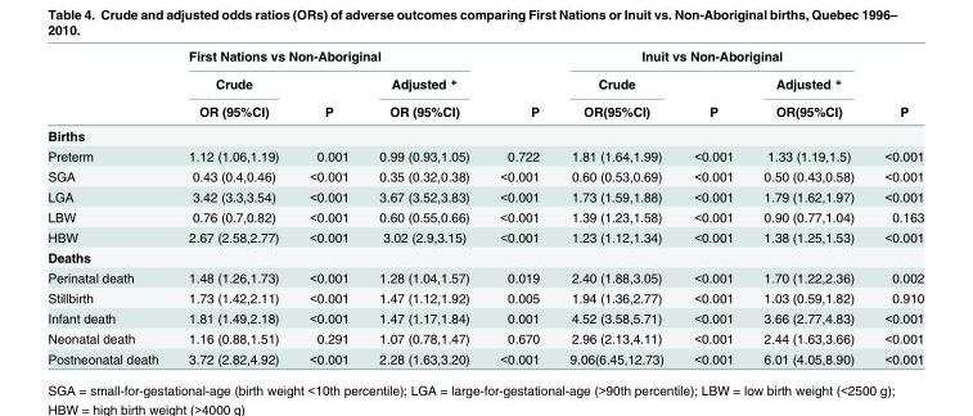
<table><thead><tr><td rowspan="3"></td><td colspan="3">First Nations vs Non-Aboriginal</td><td rowspan="3">P</td><td colspan="3">Inuit vs Non-Aboriginal</td><td rowspan="3">P</td></tr><tr><td rowspan="2">Crude OR (95%CI)</td><td rowspan="2">P</td><td rowspan="2">Adjusted * OR (95%CI)</td><td rowspan="2">Crude OR(95%CI)</td><td rowspan="2">P</td><td rowspan="2">Adjusted * OR(95%CI)</td></tr><tr></tr></thead><tbody><tr><td colspan="9">Births</td></tr><tr><td>Preterm</td><td>1.12 (1.06,1.19)</td><td>0.001</td><td>0.99 (0.93,1.05)</td><td>0.722</td><td>1.81 (1.64,1.99)</td><td>&lt;0.001</td><td>1.33 (1.19,1.5)</td><td>&lt;0.001</td></tr><tr><td>SGA</td><td>0.43 (0.4,0.46)</td><td>&lt;0.001</td><td>0.35 (0.32,0.38)</td><td>&lt;0.001</td><td>0.60 (0.53,0.69)</td><td>&lt;0.001</td><td>0.50 (0.43,0.58)</td><td>&lt;0.001</td></tr><tr><td>LGA</td><td>3.42 (3.3,3.54)</td><td>&lt;0.001</td><td>3.67 (3.52,3.83)</td><td>&lt;0.001</td><td>1.73 (1.59,1.88)</td><td>&lt;0.001</td><td>1.79 (1.62,1.97)</td><td>&lt;0.001</td></tr><tr><td>LBW</td><td>0.76 (0.7,0.82)</td><td>&lt;0.001</td><td>0.60 (0.55,0.66)</td><td>&lt;0.001</td><td>1.39 (1.23,1.58)</td><td>&lt;0.001</td><td>0.90 (0.77,1.04)</td><td>0.163</td></tr><tr><td>HBW</td><td>2.67 (2.58,2.77)</td><td>&lt;0.001</td><td>3.02 (2.9,3.15)</td><td>&lt;0.001</td><td>1.23 (1.12,1.34)</td><td>&lt;0.001</td><td>1.38 (1.25,1.53)</td><td>&lt;0.001</td></tr><tr><td colspan="9">Deaths</td></tr><tr><td>Perinatal death</td><td>1.48 (1.26,1.73)</td><td>&lt;0.001</td><td>1.28 (1.04,1.57)</td><td>0.019</td><td>2.40 (1.88,3.05)</td><td>&lt;0.001</td><td>1.70 (1.22,2.36)</td><td>0.002</td></tr><tr><td>Stillbirth</td><td>1.73 (1.42,2.11)</td><td>&lt;0.001</td><td>1.47 (1.12,1.92)</td><td>0.005</td><td>1.94 (1.36,2.77)</td><td>&lt;0.001</td><td>1.03 (0.59,1.82)</td><td>0.910</td></tr><tr><td>Infant death</td><td>1.81 (1.49,2.18)</td><td>&lt;0.001</td><td>1.47 (1.17,1.84)</td><td>0.001</td><td>4.52 (3.58,5.71)</td><td>&lt;0.001</td><td>3.66 (2.77,4.83)</td><td>&lt;0.001</td></tr><tr><td>Neonatal death</td><td>1.16 (0.88,1.51)</td><td>0.291</td><td>1.07 (0.78,1.47)</td><td>0.670</td><td>2.96 (2.13,4.11)</td><td>&lt;0.001</td><td>2.44 (1.63,3.66)</td><td>&lt;0.001</td></tr><tr><td>Postneonatal death</td><td>3.72 (2.82,4.92)</td><td>&lt;0.001</td><td>2.28 (1.63,3.20)</td><td>&lt;0.001</td><td>9.06(6.45,12.73)</td><td>&lt;0.001</td><td>6.01 (4.05,8.90)</td><td>&lt;0.001</td></tr></tbody></table>